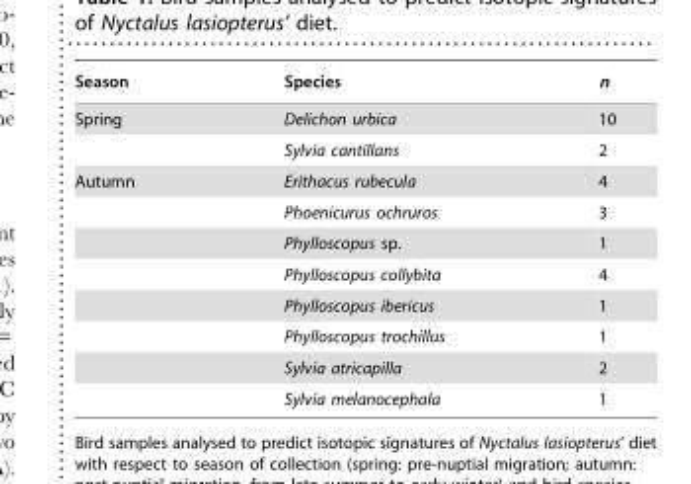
<table><thead><tr><td>Season</td><td>Species</td><td>n</td></tr></thead><tbody><tr><td rowspan="2">Spring</td><td>Delichon urbica</td><td>10</td></tr><tr><td>Sylvia cantillans</td><td>2</td></tr><tr><td rowspan="8">Autumn</td><td>Erithacus rubecula</td><td>4</td></tr><tr><td>Phoenicurus ochruros</td><td>3</td></tr><tr><td>Phylloscopus sp.</td><td>1</td></tr><tr><td>Phylloscopus collybita</td><td>4</td></tr><tr><td>Phylloscopus ibericus</td><td>1</td></tr><tr><td>Phylloscopus trochillus</td><td>1</td></tr><tr><td>Sylvia atricapilla</td><td>2</td></tr><tr><td>Sylvia melanocephala</td><td>1</td></tr></tbody></table>